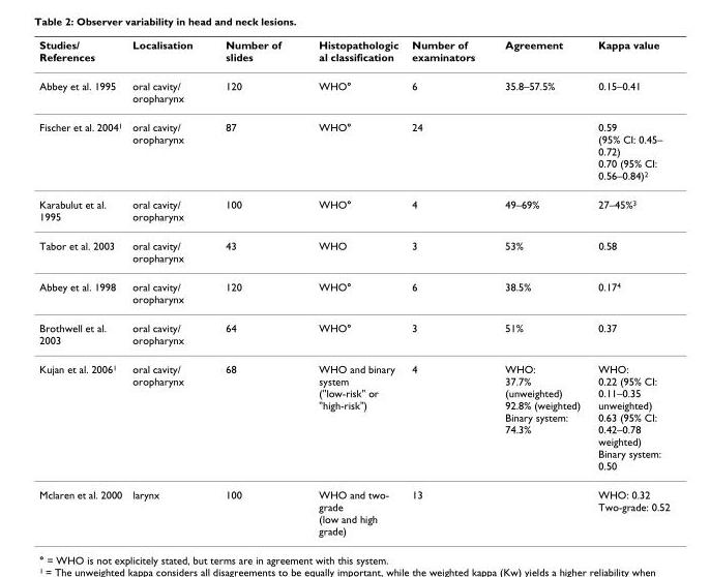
<table><thead><tr><td>Studies/ References</td><td>Localisation</td><td>Number of slides</td><td>Histopathologic al classification</td><td>Number of examinators</td><td>Agreement</td><td>Kappa value</td></tr></thead><tbody><tr><td>Abbey et al. 1995</td><td>oral cavity/ oropharynx</td><td>120</td><td>WHO°</td><td>6</td><td>35.8–57.5%</td><td>0.15–0.41</td></tr><tr><td>Fischer et al. 2004<sup>1</sup></td><td>oral cavity/ oropharynx</td><td>87</td><td>WHO°</td><td>24</td><td></td><td>0.59 (95% CI: 0.45– 0.72) 0.70 (95% CI: 0.56–0.84)<sup>2</sup></td></tr><tr><td>Karabulut et al. 1995</td><td>oral cavity/ oropharynx</td><td>100</td><td>WHO°</td><td>4</td><td>49–69%</td><td>27–45%<sup>3</sup></td></tr><tr><td>Tabor et al. 2003</td><td>oral cavity/ oropharynx</td><td>43</td><td>WHO</td><td>3</td><td>53%</td><td>0.58</td></tr><tr><td>Abbey et al. 1998</td><td>oral cavity/ oropharynx</td><td>120</td><td>WHO°</td><td>6</td><td>38.5%</td><td>0.17<sup>4</sup></td></tr><tr><td>Brothwell et al. 2003</td><td>oral cavity/ oropharynx</td><td>64</td><td>WHO°</td><td>3</td><td>51%</td><td>0.37</td></tr><tr><td>Kujan et al. 2006<sup>1</sup></td><td>oral cavity/ oropharynx</td><td>68</td><td>WHO and binary system (&quot;low-risk&quot; or &quot;high-risk&quot;)</td><td>4</td><td>WHO: 37.7% (unweighted) 92.8% (weighted) Binary system: 74.3%</td><td>WHO: 0.22 (95% CI: 0.11–0.35 unweighted) 0.63 (95% CI: 0.42–0.78 weighted) Binary system: 0.50</td></tr><tr><td>Mclaren et al. 2000</td><td>larynx</td><td>100</td><td>WHO and two- grade (low and high grade)</td><td>13</td><td></td><td>WHO: 0.32 Two-grade: 0.52</td></tr></tbody></table>